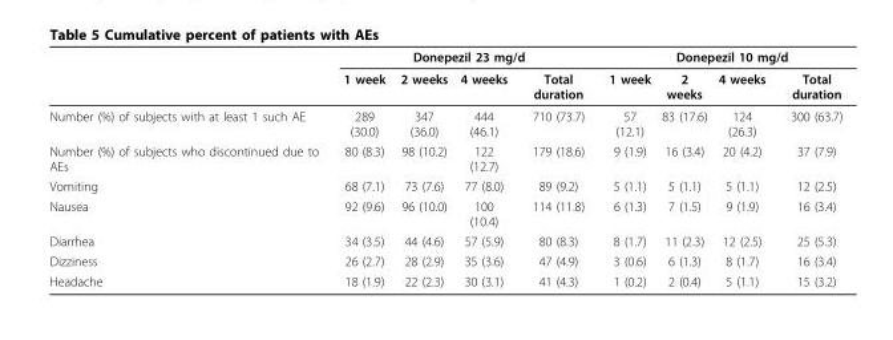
<table><thead><tr><td rowspan="2"></td><td colspan="4">Donepezil 23 mg/d</td><td colspan="4">Donepezil 10 mg/d</td></tr><tr><td>1 week</td><td>2 weeks</td><td>4 weeks</td><td>Total duration</td><td>1 week</td><td>2 weeks</td><td>4 weeks</td><td>Total duration</td></tr></thead><tbody><tr><td>Number (%) of subjects with at least 1 such AE</td><td>289 (30.0)</td><td>347 (36.0)</td><td>444 (46.1)</td><td>710 (73.7)</td><td>57 (12.1)</td><td>83 (17.6)</td><td>124 (26.3)</td><td>300 (63.7)</td></tr><tr><td>Number (%) of subjects who discontinued due to AEs</td><td>80 (8.3)</td><td>98 (10.2)</td><td>122 (12.7)</td><td>179 (18.6)</td><td>9 (1.9)</td><td>16 (3.4)</td><td>20 (4.2)</td><td>37 (7.9)</td></tr><tr><td>Vomiting</td><td>68 (7.1)</td><td>73 (7.6)</td><td>77 (8.0)</td><td>89 (9.2)</td><td>5 (1.1)</td><td>5 (1.1)</td><td>5 (1.1)</td><td>12 (2.5)</td></tr><tr><td>Nausea</td><td>92 (9.6)</td><td>96 (10.0)</td><td>100 (10.4)</td><td>114 (11.8)</td><td>6 (1.3)</td><td>7 (1.5)</td><td>9 (1.9)</td><td>16 (3.4)</td></tr><tr><td>Diarrhea</td><td>34 (3.5)</td><td>44 (4.6)</td><td>57 (5.9)</td><td>80 (8.3)</td><td>8 (1.7)</td><td>11 (2.3)</td><td>12 (2.5)</td><td>25 (5.3)</td></tr><tr><td>Dizziness</td><td>26 (2.7)</td><td>28 (2.9)</td><td>35 (3.6)</td><td>47 (4.9)</td><td>3 (0.6)</td><td>6 (1.3)</td><td>8 (1.7)</td><td>16 (3.4)</td></tr><tr><td>Headache</td><td>18 (1.9)</td><td>22 (2.3)</td><td>30 (3.1)</td><td>41 (4.3)</td><td>1 (0.2)</td><td>2 (0.4)</td><td>5 (1.1)</td><td>15 (3.2)</td></tr></tbody></table>